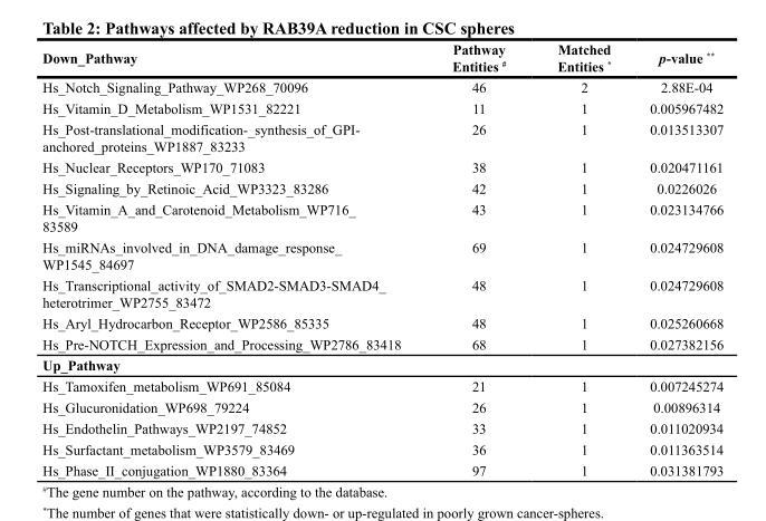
<table><thead><tr><td>Down_Pathway</td><td>Pathway Entities <sup>#</sup></td><td>Matched Entities *</td><td>p-value **</td></tr></thead><tbody><tr><td>Hs_Notch_Signaling_Pathway_WP268_70096</td><td>46</td><td>2</td><td>2.88E-04</td></tr><tr><td>Hs_Vitamin_D_Metabolism_WP1531_82221</td><td>11</td><td>1</td><td>0.005967482</td></tr><tr><td>Hs_Post-translational_modification-_synthesis_of_GPI- anchored_proteins_WP1887_83233</td><td>26</td><td>1</td><td>0.013513307</td></tr><tr><td>Hs_Nuclear_Receptors_WP170_71083</td><td>38</td><td>1</td><td>0.020471161</td></tr><tr><td>Hs_Signaling_by_Retinoic_Acid_WP3323_83286</td><td>42</td><td>1</td><td>0.0226026</td></tr><tr><td>Hs_Vitamin_A_and_Carotenoid_Metabolism_WP716_ 83589</td><td>43</td><td>1</td><td>0.023134766</td></tr><tr><td>Hs_miRNAs_involved_in_DNA_damage_response_ WP1545_84697</td><td>69</td><td>1</td><td>0.024729608</td></tr><tr><td>Hs_Transcriptional_activity_of_SMAD2-SMAD3-SMAD4_ heterotrimer_WP2755_83472</td><td>48</td><td>1</td><td>0.024729608</td></tr><tr><td>Hs_Aryl_Hydrocarbon_Receptor_WP2586_85335</td><td>48</td><td>1</td><td>0.025260668</td></tr><tr><td>Hs_Pre-NOTCH_Expression_and_Processing_WP2786_83418</td><td>68</td><td>1</td><td>0.027382156</td></tr><tr><td colspan="4">Up_Pathway</td></tr><tr><td>Hs_Tamoxifen_metabolism_WP691_85084</td><td>21</td><td>1</td><td>0.007245274</td></tr><tr><td>Hs_Glucuronidation_WP698_79224</td><td>26</td><td>1</td><td>0.00896314</td></tr><tr><td>Hs_Endothelin_Pathways_WP2197_74852</td><td>33</td><td>1</td><td>0.011020934</td></tr><tr><td>Hs_Surfactant_metabolism_WP3579_83469</td><td>36</td><td>1</td><td>0.011363514</td></tr><tr><td>Hs_Phase_II_conjugation_WP1880_83364</td><td>97</td><td>1</td><td>0.031381793</td></tr></tbody></table>